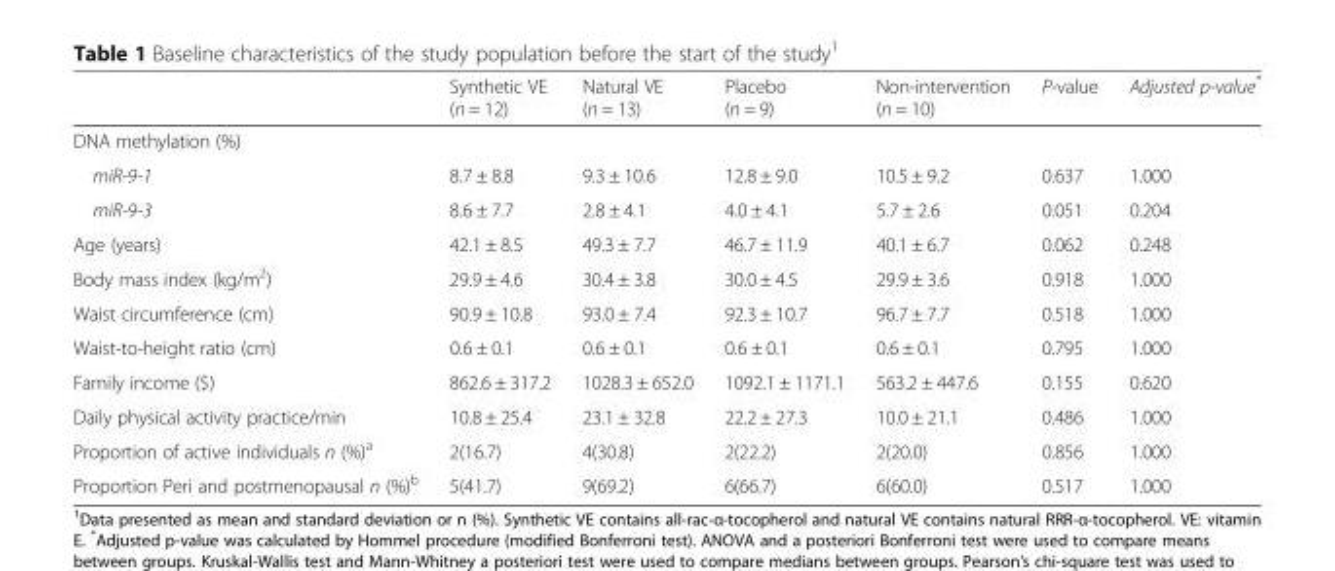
<table><thead><tr><td></td><td>Synthetic VE (n = 12)</td><td>Natural VE (n = 13)</td><td>Placebo (n = 9)</td><td>Non-intervention (n = 10)</td><td>P-value</td><td>Adjusted p-value*</td></tr></thead><tbody><tr><td colspan="7">DNA methylation (%)</td></tr><tr><td>miR-9-1</td><td>8.7 ± 8.8</td><td>9.3 ± 10.6</td><td>12.8 ± 9.0</td><td>10.5 ± 9.2</td><td>0.637</td><td>1.000</td></tr><tr><td>miR-9-3</td><td>8.6 ± 7.7</td><td>2.8 ± 4.1</td><td>4.0 ± 4.1</td><td>5.7 ± 2.6</td><td>0.051</td><td>0.204</td></tr><tr><td>Age (years)</td><td>42.1 ± 8.5</td><td>49.3 ± 7.7</td><td>46.7 ± 11.9</td><td>40.1 ± 6.7</td><td>0.062</td><td>0.248</td></tr><tr><td>Body mass index (kg/m<sup>2</sup>)</td><td>29.9 ± 4.6</td><td>30.4 ± 3.8</td><td>30.0 ± 4.5</td><td>29.9 ± 3.6</td><td>0.918</td><td>1.000</td></tr><tr><td>Waist circumference (cm)</td><td>90.9 ± 10.8</td><td>93.0 ± 7.4</td><td>92.3 ± 10.7</td><td>96.7 ± 7.7</td><td>0.518</td><td>1.000</td></tr><tr><td>Waist-to-height ratio (cm)</td><td>0.6 ± 0.1</td><td>0.6 ± 0.1</td><td>0.6 ± 0.1</td><td>0.6 ± 0.1</td><td>0.795</td><td>1.000</td></tr><tr><td>Family income ($)</td><td>862.6 ± 317.2</td><td>1028.3 ± 652.0</td><td>1092.1 ± 1171.1</td><td>563.2 ± 447.6</td><td>0.155</td><td>0.620</td></tr><tr><td>Daily physical activity practice/min</td><td>10.8 ± 25.4</td><td>23.1 ± 32.8</td><td>22.2 ± 27.3</td><td>10.0 ± 21.1</td><td>0.486</td><td>1.000</td></tr><tr><td>Proportion of active individuals n (%)<sup>a</sup></td><td>2(16.7)</td><td>4(30.8)</td><td>2(22.2)</td><td>2(20.0)</td><td>0.856</td><td>1.000</td></tr><tr><td>Proportion Peri and postmenopausal n (%)<sup>b</sup></td><td>5(41.7)</td><td>9(69.2)</td><td>6(66.7)</td><td>6(60.0)</td><td>0.517</td><td>1.000</td></tr></tbody></table>